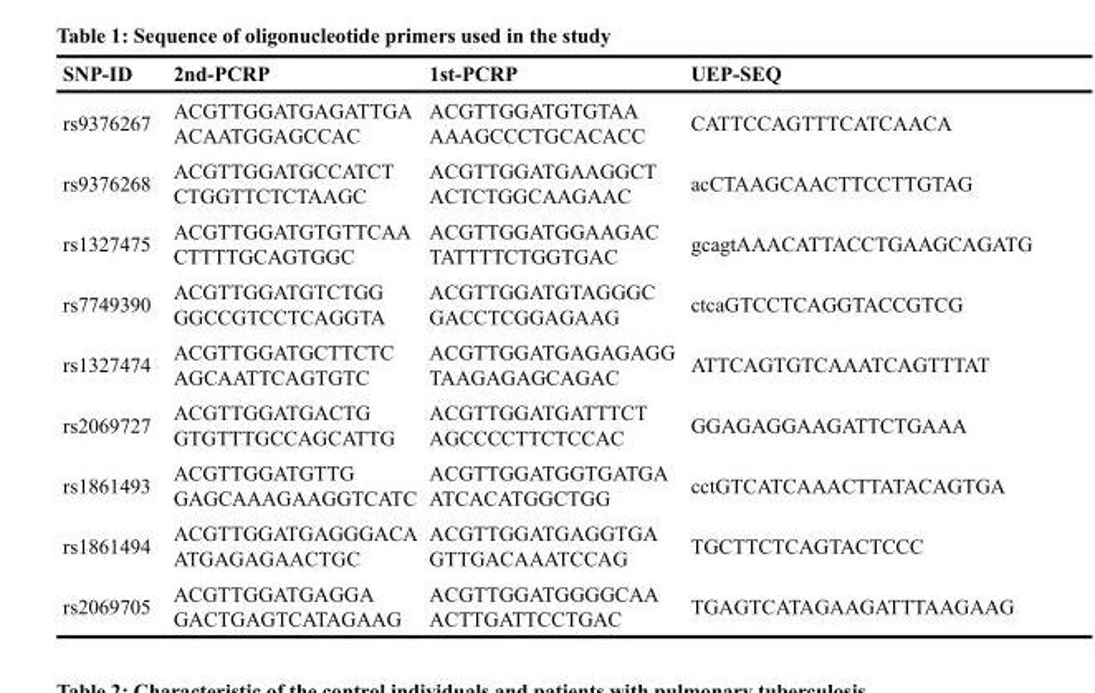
<table><thead><tr><td>SNP-ID</td><td>2nd-PCRP</td><td>1st-PCRP</td><td>UEP-SEQ</td></tr></thead><tbody><tr><td>rs9376267</td><td>ACGTTGGATGAGATTGA ACAATGGAGCCAC</td><td>ACGTTGGATGTGTAA AAAGCCCTGCACACC</td><td>CATTCCAGTTTCATCAACA</td></tr><tr><td>rs9376268</td><td>ACGTTGGATGCCATCT CTGGTTCTCTAAGC</td><td>ACGTTGGATGAAGGCT ACTCTGGCAAGAAC</td><td>acCTAAGCAACTTCCTTGTAG</td></tr><tr><td>rs1327475</td><td>ACGTTGGATGTGTTCAA CTTTTGCAGTGGC</td><td>ACGTTGGATGGAAGAC TATTTTCTGGTGAC</td><td>gcagtAAACATTACCTGAAGCAGATG</td></tr><tr><td>rs7749390</td><td>ACGTTGGATGTCTGG GGCCGTCCTCAGGTA</td><td>ACGTTGGATGTAGGGC GACCTCGGAGAAG</td><td>ctcaGTCCTCAGGTACCGTCG</td></tr><tr><td>rs1327474</td><td>ACGTTGGATGCTTCTC AGCAATTCAGTGTC</td><td>ACGTTGGATGAGAGAGG TAAGAGAGCAGAC</td><td>ATTCAGTGTCAAATCAGTTTAT</td></tr><tr><td>rs2069727</td><td>ACGTTGGATGACTG GTGTTTGCCAGCATTG</td><td>ACGTTGGATGATTTCT AGCCCCTTCTCCAC</td><td>GGAGAGGAAGATTCTGAAA</td></tr><tr><td>rs1861493</td><td>ACGTTGGATGTTG GAGCAAAGAAGGTCATC</td><td>ACGTTGGATGGTGATGA ATCACATGGCTGG</td><td>cctGTCATCAAACTTATACAGTGA</td></tr><tr><td>rs1861494</td><td>ACGTTGGATGAGGGACA ATGAGAGAACTGC</td><td>ACGTTGGATGAGGTGA GTTGACAAATCCAG</td><td>TGCTTCTCAGTACTCCC</td></tr><tr><td>rs2069705</td><td>ACGTTGGATGAGGA GACTGAGTCATAGAAG</td><td>ACGTTGGATGGGGCAA ACTTGATTCCTGAC</td><td>TGAGTCATAGAAGATTTAAGAAG</td></tr></tbody></table>